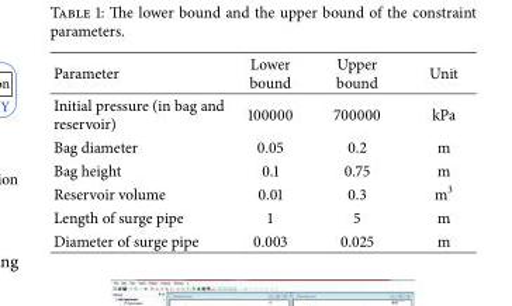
<table><thead><tr><td>Parameter</td><td>Lower bound</td><td>Upper bound</td><td>Unit</td></tr></thead><tbody><tr><td>Initial pressure (in bag and reservoir)</td><td>100000</td><td>700000</td><td>kPa</td></tr><tr><td>Bag diameter</td><td>0.05</td><td>0.2</td><td>m</td></tr><tr><td>Bag height</td><td>0.1</td><td>0.75</td><td>m</td></tr><tr><td>Reservoir volume</td><td>0.01</td><td>0.3</td><td>m<sup>3</sup></td></tr><tr><td>Length of surge pipe</td><td>1</td><td>5</td><td>m</td></tr><tr><td>Diameter of surge pipe</td><td>0.003</td><td>0.025</td><td>m</td></tr></tbody></table>